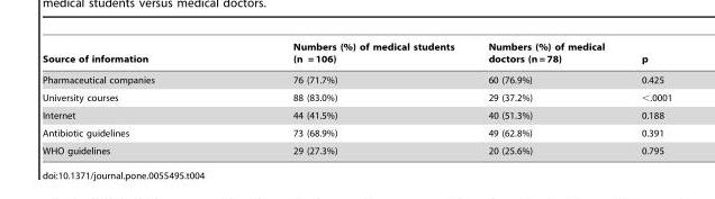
<table><thead><tr><td>Source of information</td><td>Numbers (%) of medical students (n = 106)</td><td>Numbers (%) of medical doctors (n = 78)</td><td>p</td></tr></thead><tbody><tr><td>Pharmaceutical companies</td><td>76 (71.7%)</td><td>60 (76.9%)</td><td>0.425</td></tr><tr><td>University courses</td><td>88 (83.0%)</td><td>29 (37.2%)</td><td>&lt;.0001</td></tr><tr><td>Internet</td><td>44 (41.5%)</td><td>40 (51.3%)</td><td>0.188</td></tr><tr><td>Antibiotic guidelines</td><td>73 (68.9%)</td><td>49 (62.8%)</td><td>0.391</td></tr><tr><td>WHO guidelines</td><td>29 (27.3%)</td><td>20 (25.6%)</td><td>0.795</td></tr></tbody></table>